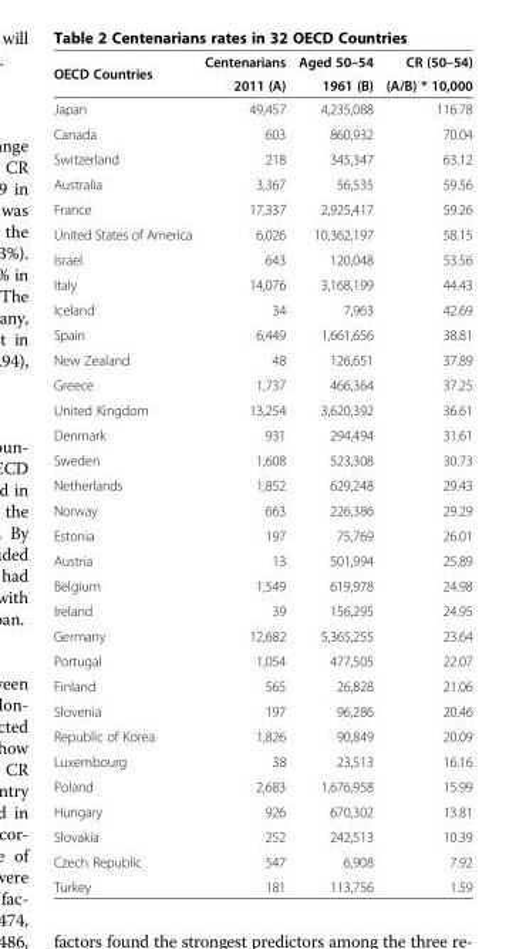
<table><thead><tr><td>OECD Countries</td><td>Centenarians 2011 (A)</td><td>Aged 50–54 1961 (B)</td><td>CR (50–54) (A/B) * 10,000</td></tr></thead><tbody><tr><td>Japan</td><td>49,457</td><td>4,235,088</td><td>116.78</td></tr><tr><td>Canada</td><td>603</td><td>860,932</td><td>70.04</td></tr><tr><td>Switzerland</td><td>218</td><td>345,347</td><td>63.12</td></tr><tr><td>Australia</td><td>3,367</td><td>56,535</td><td>59.56</td></tr><tr><td>France</td><td>17,337</td><td>2,925,417</td><td>59.26</td></tr><tr><td>United States of America</td><td>6,026</td><td>10,362,197</td><td>58.15</td></tr><tr><td>Israel</td><td>643</td><td>120,048</td><td>53.56</td></tr><tr><td>Italy</td><td>14,076</td><td>3,168,199</td><td>44.43</td></tr><tr><td>Iceland</td><td>34</td><td>7,963</td><td>42.69</td></tr><tr><td>Spain</td><td>6,449</td><td>1,661,656</td><td>38.81</td></tr><tr><td>New Zealand</td><td>48</td><td>126,651</td><td>37.89</td></tr><tr><td>Greece</td><td>1,737</td><td>466,364</td><td>37.25</td></tr><tr><td>United Kingdom</td><td>13,254</td><td>3,620,392</td><td>36.61</td></tr><tr><td>Denmark</td><td>931</td><td>294,494</td><td>31.61</td></tr><tr><td>Sweden</td><td>1,608</td><td>523,308</td><td>30.73</td></tr><tr><td>Netherlands</td><td>1,852</td><td>629,248</td><td>29.43</td></tr><tr><td>Norway</td><td>663</td><td>226,386</td><td>29.29</td></tr><tr><td>Estonia</td><td>197</td><td>75,769</td><td>26.01</td></tr><tr><td>Austria</td><td>13</td><td>501,994</td><td>25.89</td></tr><tr><td>Belgium</td><td>1,549</td><td>619,978</td><td>24.98</td></tr><tr><td>Ireland</td><td>39</td><td>156,295</td><td>24.95</td></tr><tr><td>Germany</td><td>12,682</td><td>5,365,255</td><td>23.64</td></tr><tr><td>Portugal</td><td>1,054</td><td>477,505</td><td>22.07</td></tr><tr><td>Finland</td><td>565</td><td>26,828</td><td>21.06</td></tr><tr><td>Slovenia</td><td>197</td><td>96,286</td><td>20.46</td></tr><tr><td>Republic of Korea</td><td>1,826</td><td>90,849</td><td>20.09</td></tr><tr><td>Luxembourg</td><td>38</td><td>23,513</td><td>16.16</td></tr><tr><td>Poland</td><td>2,683</td><td>1,676,958</td><td>15.99</td></tr><tr><td>Hungary</td><td>926</td><td>670,302</td><td>13.81</td></tr><tr><td>Slovakia</td><td>252</td><td>242,513</td><td>10.39</td></tr><tr><td>Czech Republic</td><td>547</td><td>6,908</td><td>7.92</td></tr><tr><td>Turkey</td><td>181</td><td>113,756</td><td>1.59</td></tr></tbody></table>